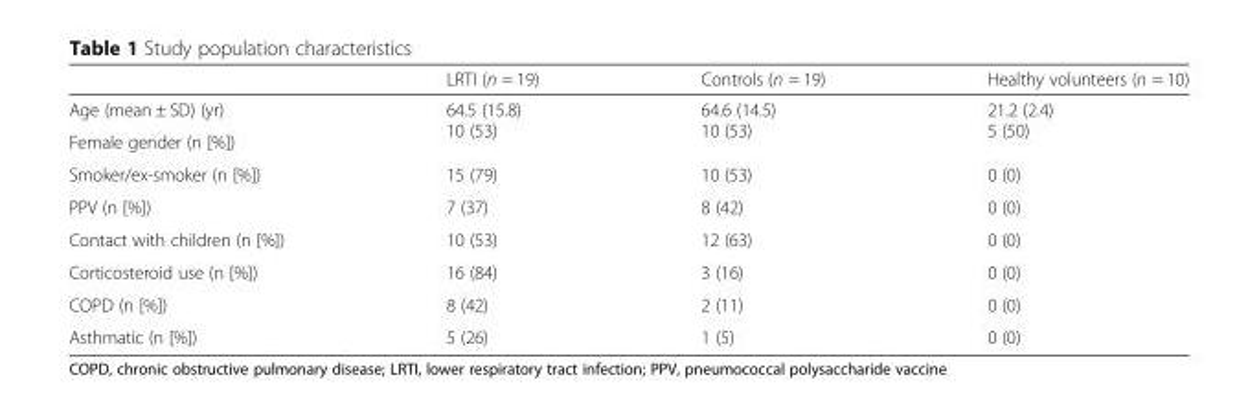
<table><thead><tr><td></td><td>LRTI (n = 19)</td><td>Controls (n = 19)</td><td>Healthy volunteers (n = 10)</td></tr></thead><tbody><tr><td>Age (mean ± SD) (yr)</td><td rowspan="2">64.5 (15.8) 10 (53)</td><td rowspan="2">64.6 (14.5) 10 (53)</td><td rowspan="2">21.2 (2.4) 5 (50)</td></tr><tr><td>Female gender (n [%])</td></tr><tr><td>Smoker/ex-smoker (n [%])</td><td>15 (79)</td><td>10 (53)</td><td>0 (0)</td></tr><tr><td>PPV (n [%])</td><td>7 (37)</td><td>8 (42)</td><td>0 (0)</td></tr><tr><td>Contact with children (n [%])</td><td>10 (53)</td><td>12 (63)</td><td>0 (0)</td></tr><tr><td>Corticosteroid use (n [%])</td><td>16 (84)</td><td>3 (16)</td><td>0 (0)</td></tr><tr><td>COPD (n [%])</td><td>8 (42)</td><td>2 (11)</td><td>0 (0)</td></tr><tr><td>Asthmatic (n [%])</td><td>5 (26)</td><td>1 (5)</td><td>0 (0)</td></tr></tbody></table>